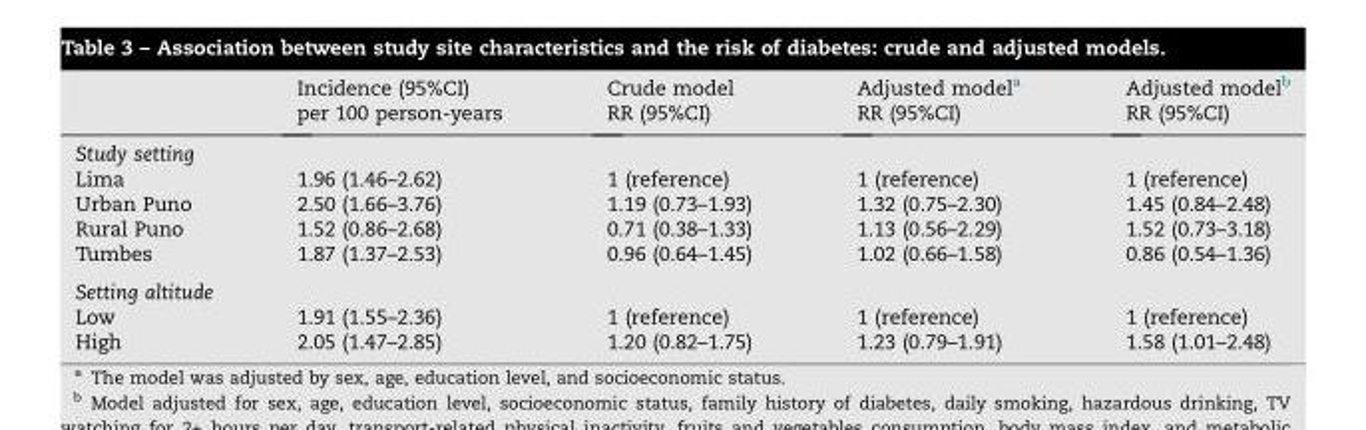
<table><thead><tr><td rowspan="2"></td><td rowspan="2">Incidence (95%CI) per 100 person-years</td><td rowspan="2">Crude model RR (95%CI)</td><td rowspan="2">Adjusted model<sup>a</sup> RR (95%CI)</td><td rowspan="2">Adjusted model<sup>b</sup> RR (95%CI)</td></tr><tr></tr></thead><tbody><tr><td colspan="5">Study setting</td></tr><tr><td>Lima</td><td>1.96 (1.46–2.62)</td><td>1 (reference)</td><td>1 (reference)</td><td>1 (reference)</td></tr><tr><td>Urban Puno</td><td>2.50 (1.66–3.76)</td><td>1.19 (0.73–1.93)</td><td>1.32 (0.75–2.30)</td><td>1.45 (0.84–2.48)</td></tr><tr><td>Rural Puno</td><td>1.52 (0.86–2.68)</td><td>0.71 (0.38–1.33)</td><td>1.13 (0.56–2.29)</td><td>1.52 (0.73–3.18)</td></tr><tr><td>Tumbes</td><td>1.87 (1.37–2.53)</td><td>0.96 (0.64–1.45)</td><td>1.02 (0.66–1.58)</td><td>0.86 (0.54–1.36)</td></tr><tr><td colspan="5">Setting altitude</td></tr><tr><td>Low</td><td>1.91 (1.55–2.36)</td><td>1 (reference)</td><td>1 (reference)</td><td>1 (reference)</td></tr><tr><td>High</td><td>2.05 (1.47–2.85)</td><td>1.20 (0.82–1.75)</td><td>1.23 (0.79–1.91)</td><td>1.58 (1.01–2.48)</td></tr></tbody></table>